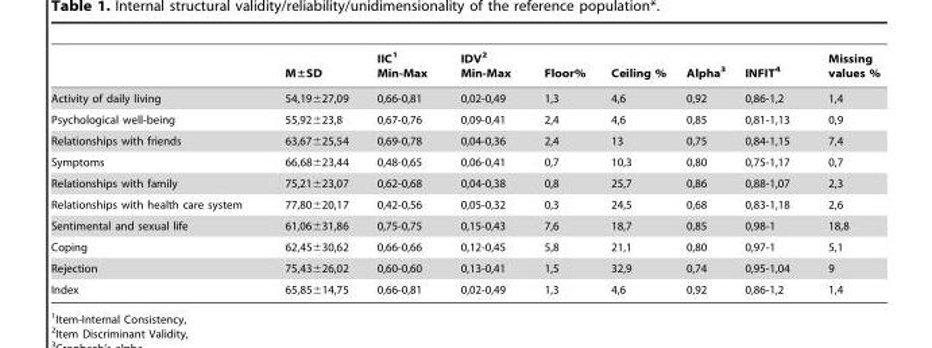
<table><thead><tr><td></td><td>M±SD</td><td>IIC<sup>1</sup> Min-Max</td><td>IDV<sup>2</sup> Min-Max</td><td>Floor%</td><td>Ceiling %</td><td>Alpha<sup>3</sup></td><td>INFIT<sup>4</sup></td><td>Missing values %</td></tr></thead><tbody><tr><td>Activity of daily living</td><td>54,19±27,09</td><td>0,66-0,81</td><td>0,02-0,49</td><td>1,3</td><td>4,6</td><td>0,92</td><td>0,86-1,2</td><td>1,4</td></tr><tr><td>Psychological well-being</td><td>55,92±23,8</td><td>0,67-0,76</td><td>0,09-0,41</td><td>2,4</td><td>4,6</td><td>0,85</td><td>0,81-1,13</td><td>0,9</td></tr><tr><td>Relationships with friends</td><td>63,67±25,54</td><td>0,69-0,78</td><td>0,04-0,36</td><td>2,4</td><td>13</td><td>0,75</td><td>0,84-1,15</td><td>7,4</td></tr><tr><td>Symptoms</td><td>66,68±23,44</td><td>0,48-0,65</td><td>0,06-0,41</td><td>0,7</td><td>10,3</td><td>0,80</td><td>0,75-1,17</td><td>0,7</td></tr><tr><td>Relationships with family</td><td>75,21±23,07</td><td>0,62-0,68</td><td>0,04-0,38</td><td>0,8</td><td>25,7</td><td>0,86</td><td>0,88-1,07</td><td>2,3</td></tr><tr><td>Relationships with health care system</td><td>77,80±20,17</td><td>0,42-0,56</td><td>0,05-0,32</td><td>0,3</td><td>24,5</td><td>0,68</td><td>0,83-1,18</td><td>2,6</td></tr><tr><td>Sentimental and sexual life</td><td>61,06±31,86</td><td>0,75-0,75</td><td>0,15-0,43</td><td>7,6</td><td>18,7</td><td>0,85</td><td>0,98-1</td><td>18,8</td></tr><tr><td>Coping</td><td>62,45±30,62</td><td>0,66-0,66</td><td>0,12-0,45</td><td>5,8</td><td>21,1</td><td>0,80</td><td>0,97-1</td><td>5,1</td></tr><tr><td>Rejection</td><td>75,43±26,02</td><td>0,60-0,60</td><td>0,13-0,41</td><td>1,5</td><td>32,9</td><td>0,74</td><td>0,95-1,04</td><td>9</td></tr><tr><td>Index</td><td>65,85±14,75</td><td>0,66-0,81</td><td>0,02-0,49</td><td>1,3</td><td>4,6</td><td>0,92</td><td>0,86-1,2</td><td>1,4</td></tr></tbody></table>